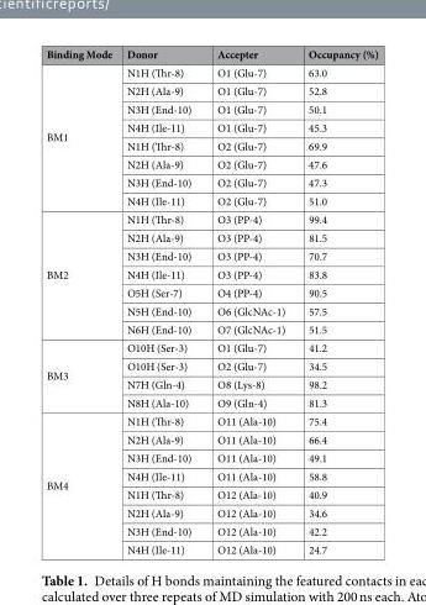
<table><thead><tr><td>Binding Mode</td><td>Donor</td><td>Accepter</td><td>Occupancy (%)</td></tr></thead><tbody><tr><td rowspan="8">BM1</td><td>N1H (Thr-8)</td><td>O1 (Glu-7)</td><td>63.0</td></tr><tr><td>N2H (Ala-9)</td><td>O1 (Glu-7)</td><td>52.8</td></tr><tr><td>N3H (End-10)</td><td>O1 (Glu-7)</td><td>50.1</td></tr><tr><td>N4H (Ile-11)</td><td>O1 (Glu-7)</td><td>45.3</td></tr><tr><td>N1H (Thr-8)</td><td>O2 (Glu-7)</td><td>69.9</td></tr><tr><td>N2H (Ala-9)</td><td>O2 (Glu-7)</td><td>47.6</td></tr><tr><td>N3H (End-10)</td><td>O2 (Glu-7)</td><td>47.3</td></tr><tr><td>N4H (Ile-11)</td><td>O2 (Glu-7)</td><td>51.0</td></tr><tr><td rowspan="7">BM2</td><td>N1H (Thr-8)</td><td>O3 (PP-4)</td><td>99.4</td></tr><tr><td>N2H (Ala-9)</td><td>O3 (PP-4)</td><td>81.5</td></tr><tr><td>N3H (End-10)</td><td>O3 (PP-4)</td><td>70.7</td></tr><tr><td>N4H (Ile-11)</td><td>O3 (PP-4)</td><td>83.8</td></tr><tr><td>O5H (Ser-7)</td><td>O4 (PP-4)</td><td>90.5</td></tr><tr><td>N5H (End-10)</td><td>O6 (GlcNAc-1)</td><td>57.5</td></tr><tr><td>N6H (End-10)</td><td>O7 (GlcNAc-1)</td><td>51.5</td></tr><tr><td rowspan="4">BM3</td><td>O10H (Ser-3)</td><td>O1 (Glu-7)</td><td>41.2</td></tr><tr><td>O10H (Ser-3)</td><td>O2 (Glu-7)</td><td>34.5</td></tr><tr><td>N7H (Gln-4)</td><td>O8 (Lys-8)</td><td>98.2</td></tr><tr><td>N8H (Ala-10)</td><td>O9 (Gln-4)</td><td>81.3</td></tr><tr><td rowspan="8">BM4</td><td>N1H (Thr-8)</td><td>O11 (Ala-10)</td><td>75.4</td></tr><tr><td>N2H (Ala-9)</td><td>O11 (Ala-10)</td><td>66.4</td></tr><tr><td>N3H (End-10)</td><td>O11 (Ala-10)</td><td>49.1</td></tr><tr><td>N4H (Ile-11)</td><td>O11 (Ala-10)</td><td>58.8</td></tr><tr><td>N1H (Thr-8)</td><td>O12 (Ala-10)</td><td>40.9</td></tr><tr><td>N2H (Ala-9)</td><td>O12 (Ala-10)</td><td>34.6</td></tr><tr><td>N3H (End-10)</td><td>O12 (Ala-10)</td><td>42.2</td></tr><tr><td>N4H (Ile-11)</td><td>O12 (Ala-10)</td><td>24.7</td></tr></tbody></table>